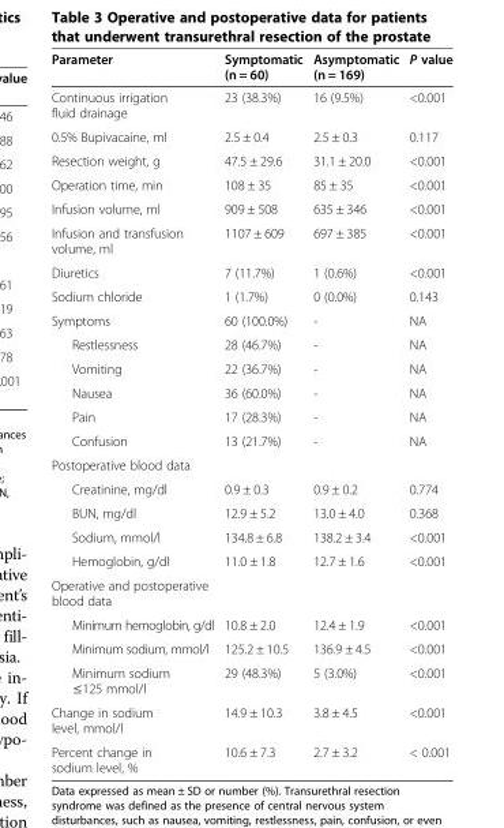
<table><thead><tr><td>Parameter</td><td>Symptomatic (n = 60)</td><td>Asymptomatic (n = 169)</td><td>P value</td></tr></thead><tbody><tr><td>Continuous irrigation fluid drainage</td><td>23 (38.3%)</td><td>16 (9.5%)</td><td>&lt;0.001</td></tr><tr><td>0.5% Bupivacaine, ml</td><td>2.5 ± 0.4</td><td>2.5 ± 0.3</td><td>0.117</td></tr><tr><td>Resection weight, g</td><td>47.5 ± 29.6</td><td>31.1 ± 20.0</td><td>&lt;0.001</td></tr><tr><td>Operation time, min</td><td>108 ± 35</td><td>85 ± 35</td><td>&lt;0.001</td></tr><tr><td>Infusion volume, ml</td><td>909 ± 508</td><td>635 ± 346</td><td>&lt;0.001</td></tr><tr><td>Infusion and transfusion volume, ml</td><td>1107 ± 609</td><td>697 ± 385</td><td>&lt;0.001</td></tr><tr><td>Diuretics</td><td>7 (11.7%)</td><td>1 (0.6%)</td><td>&lt;0.001</td></tr><tr><td>Sodium chloride</td><td>1 (1.7%)</td><td>0 (0.0%)</td><td>0.143</td></tr><tr><td>Symptoms</td><td>60 (100.0%)</td><td>-</td><td>NA</td></tr><tr><td>Restlessness</td><td>28 (46.7%)</td><td>-</td><td>NA</td></tr><tr><td>Vomiting</td><td>22 (36.7%)</td><td>-</td><td>NA</td></tr><tr><td>Nausea</td><td>36 (60.0%)</td><td>-</td><td>NA</td></tr><tr><td>Pain</td><td>17 (28.3%)</td><td>-</td><td>NA</td></tr><tr><td>Confusion</td><td>13 (21.7%)</td><td>-</td><td>NA</td></tr><tr><td colspan="4">Postoperative blood data</td></tr><tr><td>Creatinine, mg/dl</td><td>0.9 ± 0.3</td><td>0.9 ± 0.2</td><td>0.774</td></tr><tr><td>BUN, mg/dl</td><td>12.9 ± 5.2</td><td>13.0 ± 4.0</td><td>0.368</td></tr><tr><td>Sodium, mmol/l</td><td>134.8 ± 6.8</td><td>138.2 ± 3.4</td><td>&lt;0.001</td></tr><tr><td>Hemoglobin, g/dl</td><td>11.0 ± 1.8</td><td>12.7 ± 1.6</td><td>&lt;0.001</td></tr><tr><td colspan="4">Operative and postoperative blood data</td></tr><tr><td>Minimum hemoglobin, g/dl</td><td>10.8 ± 2.0</td><td>12.4 ± 1.9</td><td>&lt;0.001</td></tr><tr><td>Minimum sodium, mmol/l</td><td>125.2 ± 10.5</td><td>136.9 ± 4.5</td><td>&lt;0.001</td></tr><tr><td>Minimum sodium ≤125 mmol/l</td><td>29 (48.3%)</td><td>5 (3.0%)</td><td>&lt;0.001</td></tr><tr><td>Change in sodium level, mmol/l</td><td>14.9 ± 10.3</td><td>3.8 ± 4.5</td><td>&lt;0.001</td></tr><tr><td>Percent change in sodium level, %</td><td>10.6 ± 7.3</td><td>2.7 ± 3.2</td><td>&lt; 0.001</td></tr></tbody></table>